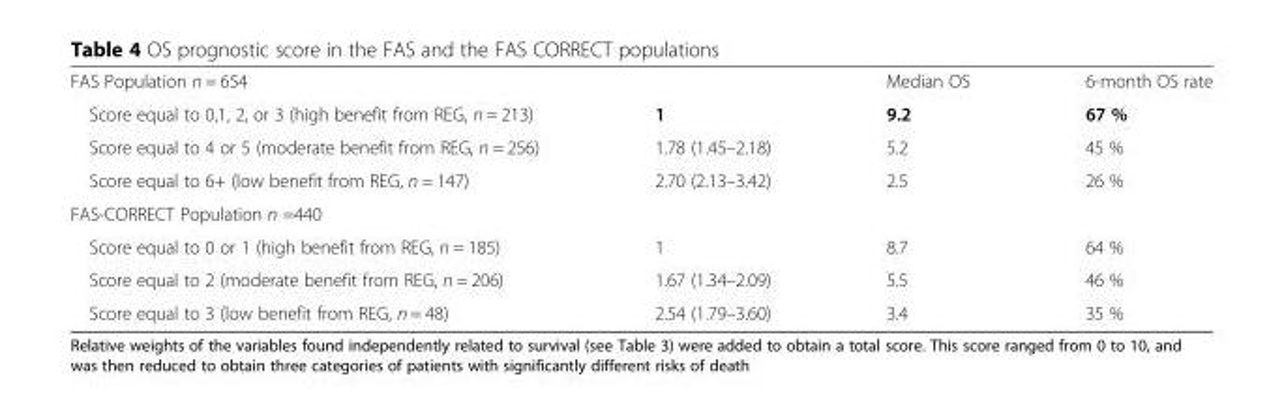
<table><tbody><tr><td>FAS Population n = 654</td><td></td><td>Median OS</td><td>6-month OS rate</td></tr><tr><td>Score equal to 0,1, 2, or 3 (high benefit from REG, n = 213)</td><td>1</td><td>9.2</td><td>67 %</td></tr><tr><td>Score equal to 4 or 5 (moderate benefit from REG, n = 256)</td><td>1.78 (1.45–2.18)</td><td>5.2</td><td>45 %</td></tr><tr><td>Score equal to 6+ (low benefit from REG, n = 147)</td><td>2.70 (2.13–3.42)</td><td>2.5</td><td>26 %</td></tr><tr><td colspan="4">FAS-CORRECT Population n =440</td></tr><tr><td>Score equal to 0 or 1 (high benefit from REG, n = 185)</td><td>1</td><td>8.7</td><td>64 %</td></tr><tr><td>Score equal to 2 (moderate benefit from REG, n = 206)</td><td>1.67 (1.34–2.09)</td><td>5.5</td><td>46 %</td></tr><tr><td>Score equal to 3 (low benefit from REG, n = 48)</td><td>2.54 (1.79–3.60)</td><td>3.4</td><td>35 %</td></tr></tbody></table>